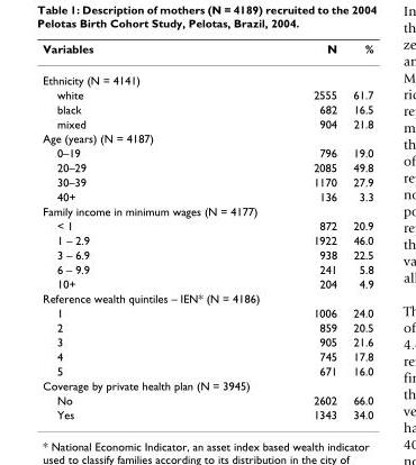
<table><thead><tr><td>Variables</td><td>N</td><td>%</td></tr></thead><tbody><tr><td colspan="3">Ethnicity (N = 4141)</td></tr><tr><td>white</td><td>2555</td><td>61.7</td></tr><tr><td>black</td><td>682</td><td>16.5</td></tr><tr><td>mixed</td><td>904</td><td>21.8</td></tr><tr><td colspan="3">Age (years) (N = 4187)</td></tr><tr><td>0–19</td><td>796</td><td>19.0</td></tr><tr><td>20–29</td><td>2085</td><td>49.8</td></tr><tr><td>30–39</td><td>1170</td><td>27.9</td></tr><tr><td>40+</td><td>136</td><td>3.3</td></tr><tr><td colspan="3">Family income in minimum wages (N = 4177)</td></tr><tr><td>&lt; 1</td><td>872</td><td>20.9</td></tr><tr><td>1 – 2.9</td><td>1922</td><td>46.0</td></tr><tr><td>3 – 6.9</td><td>938</td><td>22.5</td></tr><tr><td>6 – 9.9</td><td>241</td><td>5.8</td></tr><tr><td>10+</td><td>204</td><td>4.9</td></tr><tr><td colspan="3">Reference wealth quintiles – IEN* (N = 4186)</td></tr><tr><td>1</td><td>1006</td><td>24.0</td></tr><tr><td>2</td><td>859</td><td>20.5</td></tr><tr><td>3</td><td>905</td><td>21.6</td></tr><tr><td>4</td><td>745</td><td>17.8</td></tr><tr><td>5</td><td>671</td><td>16.0</td></tr><tr><td colspan="3">Coverage by private health plan (N = 3945)</td></tr><tr><td>No</td><td>2602</td><td>66.0</td></tr><tr><td>Yes</td><td>1343</td><td>34.0</td></tr></tbody></table>